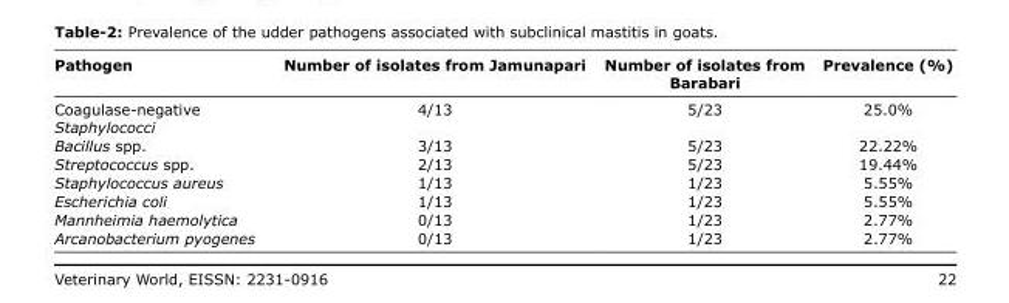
<table><thead><tr><td>Pathogen</td><td>Number of isolates from Jamunapari</td><td>Number of isolates from Barabari</td><td>Prevalence (%)</td></tr></thead><tbody><tr><td>Coagulase-negative Staphylococci</td><td>4/13</td><td>5/23</td><td>25.0%</td></tr><tr><td>Bacillus spp.</td><td>3/13</td><td>5/23</td><td>22.22%</td></tr><tr><td>Streptococcus spp.</td><td>2/13</td><td>5/23</td><td>19.44%</td></tr><tr><td>Staphylococcus aureus</td><td>1/13</td><td>1/23</td><td>5.55%</td></tr><tr><td>Escherichia coli</td><td>1/13</td><td>1/23</td><td>5.55%</td></tr><tr><td>Mannheimia haemolytica</td><td>0/13</td><td>1/23</td><td>2.77%</td></tr><tr><td>Arcanobacterium pyogenes</td><td>0/13</td><td>1/23</td><td>2.77%</td></tr></tbody></table>